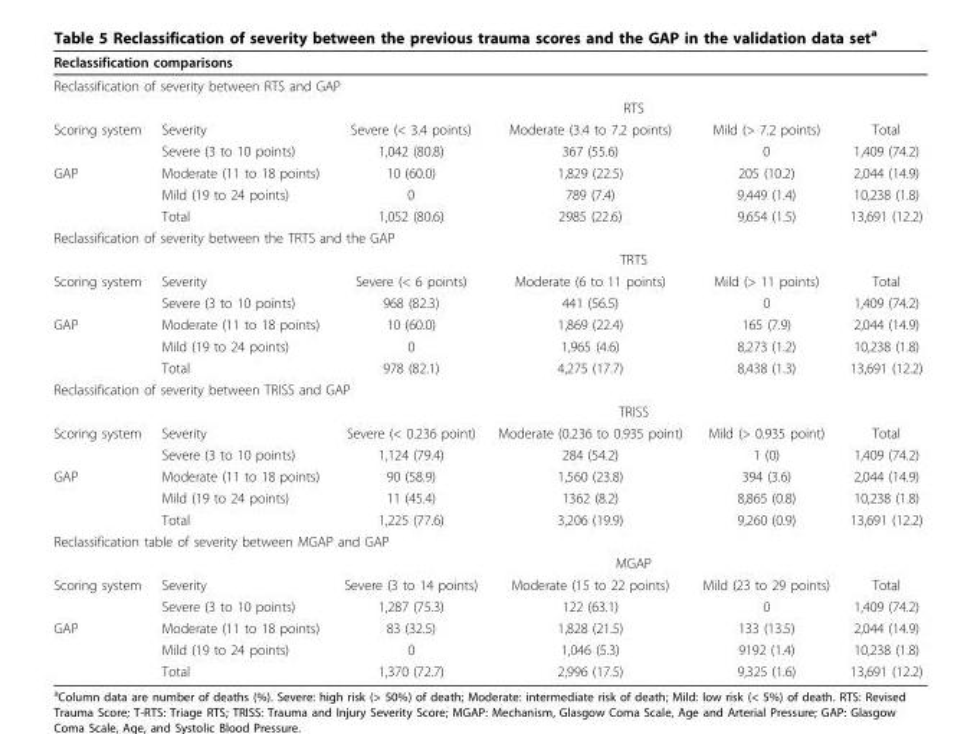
<table><thead><tr><td rowspan="2" colspan="6">Reclassification comparisons Reclassification of severity between RTS and GAP</td></tr><tr></tr><tr><td rowspan="2">Scoring system</td><td rowspan="2">Severity</td><td colspan="4">RTS</td></tr><tr><td>Severe (&lt; 3.4 points)</td><td>Moderate (3.4 to 7.2 points)</td><td>Mild (&gt; 7.2 points)</td><td>Total</td></tr></thead><tbody><tr><td></td><td>Severe (3 to 10 points)</td><td>1,042 (80.8)</td><td>367 (55.6)</td><td>0</td><td>1,409 (74.2)</td></tr><tr><td rowspan="3">GAP</td><td>Moderate (11 to 18 points)</td><td>10 (60.0)</td><td>1,829 (22.5)</td><td>205 (10.2)</td><td>2,044 (14.9)</td></tr><tr><td>Mild (19 to 24 points)</td><td>0</td><td>789 (7.4)</td><td>9,449 (1.4)</td><td>10,238 (1.8)</td></tr><tr><td>Total</td><td>1,052 (80.6)</td><td>2985 (22.6)</td><td>9,654 (1.5)</td><td>13,691 (12.2)</td></tr><tr><td colspan="6">Reclassification of severity between the TRTS and the GAP</td></tr><tr><td></td><td></td><td colspan="4">TRTS</td></tr><tr><td rowspan="2">Scoring system</td><td>Severity</td><td>Severe (&lt; 6 points)</td><td>Moderate (6 to 11 points)</td><td>Mild (&gt; 11 points)</td><td>Total</td></tr><tr><td>Severe (3 to 10 points)</td><td>968 (82.3)</td><td>441 (56.5)</td><td>0</td><td>1,409 (74.2)</td></tr><tr><td rowspan="3">GAP</td><td>Moderate (11 to 18 points)</td><td>10 (60.0)</td><td>1,869 (22.4)</td><td>165 (7.9)</td><td>2,044 (14.9)</td></tr><tr><td>Mild (19 to 24 points)</td><td>0</td><td>1,965 (4.6)</td><td>8,273 (1.2)</td><td>10,238 (1.8)</td></tr><tr><td>Total</td><td>978 (82.1)</td><td>4,275 (17.7)</td><td>8,438 (1.3)</td><td>13,691 (12.2)</td></tr><tr><td colspan="6">Reclassification of severity between TRISS and GAP</td></tr><tr><td></td><td></td><td colspan="4">TRISS</td></tr><tr><td rowspan="2">Scoring system</td><td>Severity</td><td>Severe (&lt; 0.236 point)</td><td>Moderate (0.236 to 0.935 point)</td><td>Mild (&gt; 0.935 point)</td><td>Total</td></tr><tr><td>Severe (3 to 10 points)</td><td>1,124 (79.4)</td><td>284 (54.2)</td><td>1 (0)</td><td>1,409 (74.2)</td></tr><tr><td rowspan="3">GAP</td><td>Moderate (11 to 18 points)</td><td>90 (58.9)</td><td>1,560 (23.8)</td><td>394 (3.6)</td><td>2,044 (14.9)</td></tr><tr><td>Mild (19 to 24 points)</td><td>11 (45.4)</td><td>1362 (8.2)</td><td>8,865 (0.8)</td><td>10,238 (1.8)</td></tr><tr><td>Total</td><td>1,225 (77.6)</td><td>3,206 (19.9)</td><td>9,260 (0.9)</td><td>13,691 (12.2)</td></tr><tr><td colspan="6">Reclassification table of severity between MGAP and GAP</td></tr><tr><td></td><td></td><td colspan="4">MGAP</td></tr><tr><td rowspan="2">Scoring system</td><td>Severity</td><td>Severe (3 to 14 points)</td><td>Moderate (15 to 22 points)</td><td>Mild (23 to 29 points)</td><td>Total</td></tr><tr><td>Severe (3 to 10 points)</td><td>1,287 (75.3)</td><td>122 (63.1)</td><td>0</td><td>1,409 (74.2)</td></tr><tr><td rowspan="3">GAP</td><td>Moderate (11 to 18 points)</td><td>83 (32.5)</td><td>1,828 (21.5)</td><td>133 (13.5)</td><td>2,044 (14.9)</td></tr><tr><td>Mild (19 to 24 points)</td><td>0</td><td>1,046 (5.3)</td><td>9192 (1.4)</td><td>10,238 (1.8)</td></tr><tr><td>Total</td><td>1,370 (72.7)</td><td>2,996 (17.5)</td><td>9,325 (1.6)</td><td>13,691 (12.2)</td></tr></tbody></table>